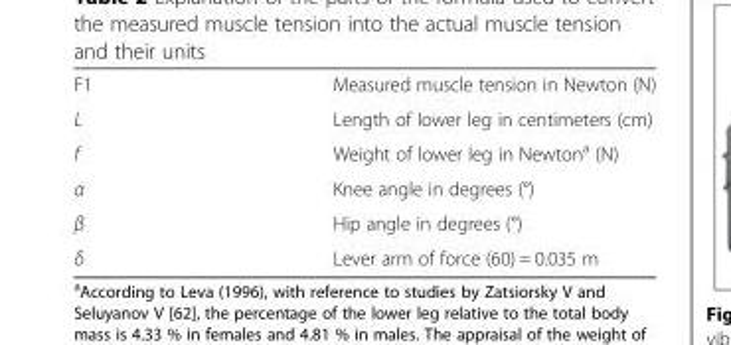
<table><tbody><tr><td>F1</td><td>Measured muscle tension in Newton (N)</td></tr><tr><td>L</td><td>Length of lower leg in centimeters (cm)</td></tr><tr><td>f</td><td>Weight of lower leg in Newton<sup>a</sup> (N)</td></tr><tr><td>α</td><td>Knee angle in degrees (°)</td></tr><tr><td>β</td><td>Hip angle in degrees (°)</td></tr><tr><td>δ</td><td>Lever arm of force (60) = 0.035 m</td></tr></tbody></table>